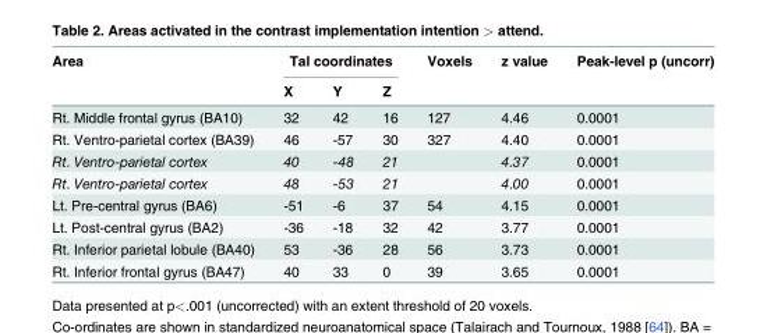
<table><thead><tr><td rowspan="2">Area</td><td colspan="3">Tal coordinates</td><td rowspan="2">Voxels</td><td rowspan="2">z value</td><td rowspan="2">Peak-level p (uncorr)</td></tr><tr><td>X</td><td>Y</td><td>Z</td></tr></thead><tbody><tr><td>Rt. Middle frontal gyrus (BA10)</td><td>32</td><td>42</td><td>16</td><td>127</td><td>4.46</td><td>0.0001</td></tr><tr><td>Rt. Ventro-parietal cortex (BA39)</td><td>46</td><td>-57</td><td>30</td><td>327</td><td>4.40</td><td>0.0001</td></tr><tr><td>Rt. Ventro-parietal cortex</td><td>40</td><td>-48</td><td>21</td><td></td><td>4.37</td><td>0.0001</td></tr><tr><td>Rt. Ventro-parietal cortex</td><td>48</td><td>-53</td><td>21</td><td></td><td>4.00</td><td>0.0001</td></tr><tr><td>Lt. Pre-central gyrus (BA6)</td><td>-51</td><td>-6</td><td>37</td><td>54</td><td>4.15</td><td>0.0001</td></tr><tr><td>Lt. Post-central gyrus (BA2)</td><td>-36</td><td>-18</td><td>32</td><td>42</td><td>3.77</td><td>0.0001</td></tr><tr><td>Rt. Inferior parietal lobule (BA40)</td><td>53</td><td>-36</td><td>28</td><td>56</td><td>3.73</td><td>0.0001</td></tr><tr><td>Rt. Inferior frontal gyrus (BA47)</td><td>40</td><td>33</td><td>0</td><td>39</td><td>3.65</td><td>0.0001</td></tr></tbody></table>